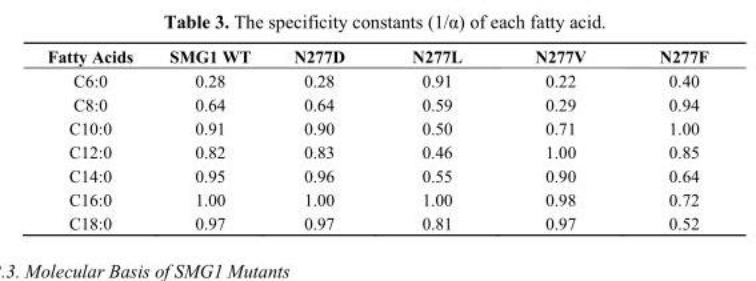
<table><thead><tr><td>Fatty Acids</td><td>SMG1 WT</td><td>N277D</td><td>N277L</td><td>N277V</td><td>N277F</td></tr></thead><tbody><tr><td>C6:0</td><td>0.28</td><td>0.28</td><td>0.91</td><td>0.22</td><td>0.40</td></tr><tr><td>C8:0</td><td>0.64</td><td>0.64</td><td>0.59</td><td>0.29</td><td>0.94</td></tr><tr><td>C10:0</td><td>0.91</td><td>0.90</td><td>0.50</td><td>0.71</td><td>1.00</td></tr><tr><td>C12:0</td><td>0.82</td><td>0.83</td><td>0.46</td><td>1.00</td><td>0.85</td></tr><tr><td>C14:0</td><td>0.95</td><td>0.96</td><td>0.55</td><td>0.90</td><td>0.64</td></tr><tr><td>C16:0</td><td>1.00</td><td>1.00</td><td>1.00</td><td>0.98</td><td>0.72</td></tr><tr><td>C18:0</td><td>0.97</td><td>0.97</td><td>0.81</td><td>0.97</td><td>0.52</td></tr></tbody></table>